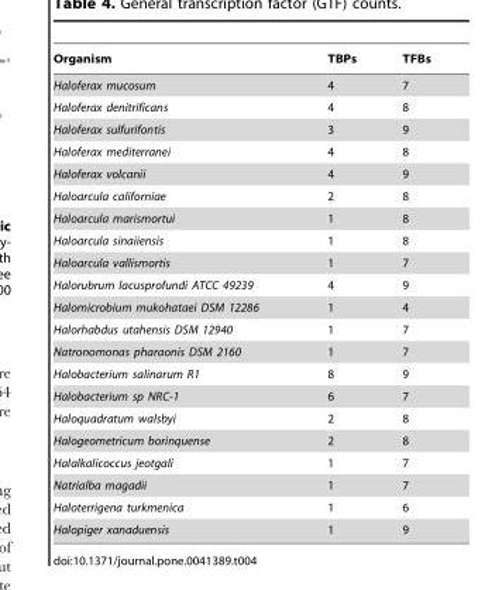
<table><thead><tr><td>Organism</td><td>TBPs</td><td>TFBs</td></tr></thead><tbody><tr><td>Haloferax mucosum</td><td>4</td><td>7</td></tr><tr><td>Haloferax denitrificans</td><td>4</td><td>8</td></tr><tr><td>Haloferax sulfurifontis</td><td>3</td><td>9</td></tr><tr><td>Haloferax mediterranei</td><td>4</td><td>8</td></tr><tr><td>Haloferax volcanii</td><td>4</td><td>9</td></tr><tr><td>Haloarcula californiae</td><td>2</td><td>8</td></tr><tr><td>Haloarcula marismortui</td><td>1</td><td>8</td></tr><tr><td>Haloarcula sinaiiensis</td><td>1</td><td>8</td></tr><tr><td>Haloarcula vallismortis</td><td>1</td><td>7</td></tr><tr><td>Halorubrum lacusprofundi ATCC 49239</td><td>4</td><td>9</td></tr><tr><td>Halomicrobium mukohataei DSM 12286</td><td>1</td><td>4</td></tr><tr><td>Halorhabdus utahensis DSM 12940</td><td>1</td><td>7</td></tr><tr><td>Natronomonas pharaonis DSM 2160</td><td>1</td><td>7</td></tr><tr><td>Halobacterium salinarum R1</td><td>8</td><td>9</td></tr><tr><td>Halobacterium sp NRC-1</td><td>6</td><td>7</td></tr><tr><td>Haloquadratum walsbyi</td><td>2</td><td>8</td></tr><tr><td>Halogeometricum borinquense</td><td>2</td><td>8</td></tr><tr><td>Halalkalicoccus jeotgali</td><td>1</td><td>7</td></tr><tr><td>Natrialba magadii</td><td>1</td><td>7</td></tr><tr><td>Haloterrigena turkmenica</td><td>1</td><td>6</td></tr><tr><td>Halopiger xanaduensis</td><td>1</td><td>9</td></tr></tbody></table>